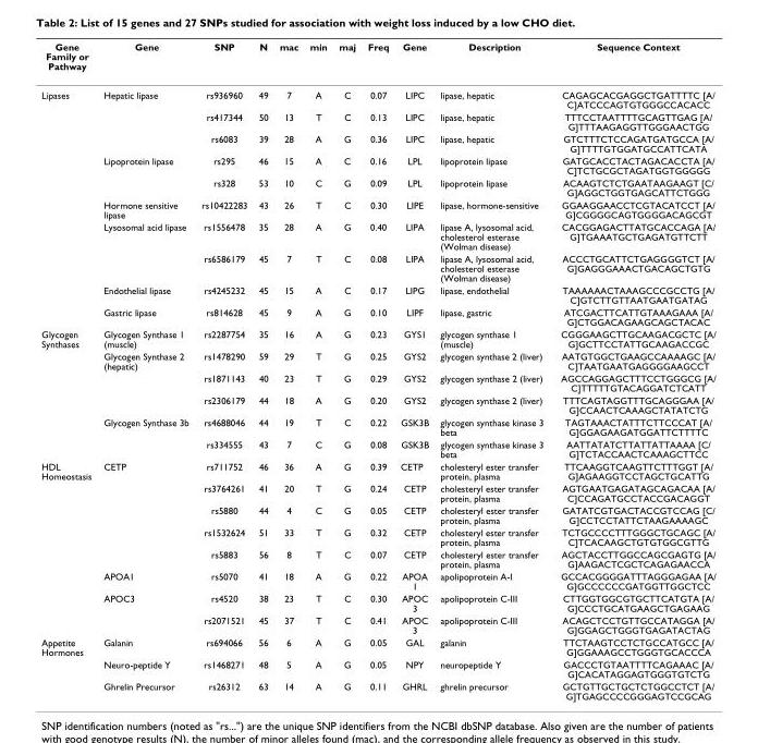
<table><thead><tr><td>Gene Family or Pathway</td><td>Gene</td><td>SNP</td><td>N</td><td>mac</td><td>min</td><td>maj</td><td>Freq</td><td>Gene</td><td>Description</td><td>Sequence Context</td></tr></thead><tbody><tr><td rowspan="10">Lipases</td><td>Hepatic lipase</td><td>rs936960</td><td>49</td><td>7</td><td>A</td><td>C</td><td>0.07</td><td>LIPC</td><td>lipase, hepatic</td><td>CAGAGCACGAGGCTGATTTTC [A/ C]ATCCCAGTGTGGGCCACACC</td></tr><tr><td></td><td>rs417344</td><td>50</td><td>13</td><td>T</td><td>C</td><td>0.13</td><td>LIPC</td><td>lipase, hepatic</td><td>TTTCCTAATTTTGCAGTTGAG [A/ G]TTTAAGAGGTTGGGAACTGG</td></tr><tr><td></td><td>rs6083</td><td>39</td><td>28</td><td>A</td><td>G</td><td>0.36</td><td>LIPC</td><td>lipase, hepatic</td><td>GTCTTTCTCCAGATGATGCCA [A/ G]TTTTGTGGATGCCATTCATA</td></tr><tr><td>Lipoprotein lipase</td><td>rs295</td><td>46</td><td>15</td><td>A</td><td>C</td><td>0.16</td><td>LPL</td><td>lipoprotein lipase</td><td>GATGCACCTACTAGACACCTA [A/ C]TCTGCGCTAGATGGTGGGGG</td></tr><tr><td></td><td>rs328</td><td>53</td><td>10</td><td>C</td><td>G</td><td>0.09</td><td>LPL</td><td>lipoprotein lipase</td><td>ACAAGTCTCTGAATAAGAAGT [C/ G]AGGCTGGTGAGCATTCTGGG</td></tr><tr><td>Hormone sensitive lipase</td><td>rs10422283</td><td>43</td><td>26</td><td>T</td><td>C</td><td>0.30</td><td>LIPE</td><td>lipase, hormone-sensitive</td><td>GGAAGGAACCTCGTACATCCT [A/ G]CGGGGCAGTGGGGACAGCGT</td></tr><tr><td>Lysosomal acid lipase</td><td>rs1556478</td><td>35</td><td>28</td><td>A</td><td>G</td><td>0.40</td><td>LIPA</td><td>lipase A, lysosomal acid, cholesterol esterase (Wolman disease)</td><td>CACGGAGACTTATGCACCAGA [A/ G]TGAAATGCTGAGATGTTCTT</td></tr><tr><td></td><td>rs6586179</td><td>45</td><td>7</td><td>T</td><td>C</td><td>0.08</td><td>LIPA</td><td>lipase A, lysosomal acid, cholesterol esterase (Wolman disease)</td><td>ACCCTGCATTCTGAGGGGTCT [A/ G]GAGGGAAACTGACAGCTGTG</td></tr><tr><td>Endothelial lipase</td><td>rs4245232</td><td>45</td><td>15</td><td>A</td><td>C</td><td>0.17</td><td>LIPG</td><td>lipase, endothelial</td><td>TAAAAAACTAAAGCCCGCCTG [A/ C]GTCTTGTTAATGAATGATAG</td></tr><tr><td>Gastric lipase</td><td>rs814628</td><td>45</td><td>9</td><td>A</td><td>G</td><td>0.10</td><td>LIPF</td><td>lipase, gastric</td><td>ATCGACTTCATTGTAAAGAAA [A/ G]CTGGACAGAAGCAGCTACAC</td></tr><tr><td rowspan="6">Glycogen Synthases</td><td>Glycogen Synthase 1 (muscle)</td><td>rs2287754</td><td>35</td><td>16</td><td>A</td><td>G</td><td>0.23</td><td>GYS1</td><td>glycogen synthase 1 (muscle)</td><td>CGGGAAGCTTGCAAGACGCTC [A/ G]GCTTCCTATTGCAAGACCGC</td></tr><tr><td>Glycogen Synthase 2 (hepatic)</td><td>rs1478290</td><td>59</td><td>29</td><td>T</td><td>G</td><td>0.25</td><td>GYS2</td><td>glycogen synthase 2 (liver)</td><td>AATGTGGCTGAAGCCAAAAGC [A/ C]TAATGAATGAGGGGAAGCCT</td></tr><tr><td></td><td>rs1871143</td><td>40</td><td>23</td><td>T</td><td>G</td><td>0.29</td><td>GYS2</td><td>glycogen synthase 2 (liver)</td><td>AGCCAGGAGCTTTCCTGGGCG [A/ C]TTTTTGTACAGGATCTCATT</td></tr><tr><td></td><td>rs2306179</td><td>44</td><td>18</td><td>A</td><td>G</td><td>0.20</td><td>GYS2</td><td>glycogen synthase 2 (liver)</td><td>TTTCAGTAGGTTTGCAGGGAA [A/ G]CCAACTCAAAGCTATATCTG</td></tr><tr><td>Glycogen Synthase 3b</td><td>rs4688046</td><td>44</td><td>19</td><td>T</td><td>C</td><td>0.22</td><td>GSK3B</td><td>glycogen synthase kinase 3 beta</td><td>TAGTAAACTATTTCTTCCCAT [A/ G]GGAGAAGATGGATTCTTTTC</td></tr><tr><td></td><td>rs334555</td><td>43</td><td>7</td><td>C</td><td>G</td><td>0.08</td><td>GSK3B</td><td>glycogen synthase kinase 3 beta</td><td>AATTATATCTTATTATTAAAA [C/ G]TCTACCAACTCAAAGCTTCC</td></tr><tr><td rowspan="8">HDL Homeostasis</td><td>CETP</td><td>rs711752</td><td>46</td><td>36</td><td>A</td><td>G</td><td>0.39</td><td>CETP</td><td>cholesteryl ester transfer protein, plasma</td><td>TTCAAGGTCAAGTTCTTTGGT [A/ G]AGAAGGTCCTAGCTGCATTG</td></tr><tr><td></td><td>rs3764261</td><td>41</td><td>20</td><td>T</td><td>G</td><td>0.24</td><td>CETP</td><td>cholesteryl ester transfer protein, plasma</td><td>AGTGAATGAGATAGCAGACAA [A/ C]CCAGATGCCTACCGACAGGT</td></tr><tr><td></td><td>rs5880</td><td>44</td><td>4</td><td>C</td><td>G</td><td>0.05</td><td>CETP</td><td>cholesteryl ester transfer protein, plasma</td><td>GATATCGTGACTACCGTCCAG [C/ G]CCTCCTATTCTAAGAAAAGC</td></tr><tr><td></td><td>rs1532624</td><td>51</td><td>33</td><td>T</td><td>G</td><td>0.32</td><td>CETP</td><td>cholesteryl ester transfer protein, plasma</td><td>TCTGCCCCTTTGGGCTGCAGC [A/ C]TCACAAGCTGTGTGGCGTTG</td></tr><tr><td></td><td>rs5883</td><td>56</td><td>8</td><td>T</td><td>C</td><td>0.07</td><td>CETP</td><td>cholesteryl ester transfer protein, plasma</td><td>AGCTACCTTGGCCAGCGAGTG [A/ G]AAGACTCGCTCAGAGAACCA</td></tr><tr><td>APOA1</td><td>rs5070</td><td>41</td><td>18</td><td>A</td><td>G</td><td>0.22</td><td>APOA 1</td><td>apolipoprotein A-I</td><td>GCCACGGGGATTTAGGGAGAA [A/ G]GCCCCCCGATGGTTGGCTCC</td></tr><tr><td>APOC3</td><td>rs4520</td><td>38</td><td>23</td><td>T</td><td>C</td><td>0.30</td><td>APOC 3</td><td>apolipoprotein C-III</td><td>CTTGGTGGCGTGCTTCATGTA [A/ G]CCCTGCATGAAGCTGAGAAG</td></tr><tr><td></td><td>rs2071521</td><td>45</td><td>37</td><td>T</td><td>C</td><td>0.41</td><td>APOC 3</td><td>apolipoprotein C-III</td><td>ACAGCTCCTGTTGCCATAGGA [A/ G]GGAGCTGGGTGAGATACTAG</td></tr><tr><td rowspan="3">Appetite Hormones</td><td>Galanin</td><td>rs694066</td><td>56</td><td>6</td><td>A</td><td>G</td><td>0.05</td><td>GAL</td><td>galanin</td><td>TTCTAAGTCCTCTGCCATGCC [A/ G]GGAAAGCCTGGGTGCACCCA</td></tr><tr><td>Neuro-peptide Y</td><td>rs1468271</td><td>48</td><td>5</td><td>A</td><td>G</td><td>0.05</td><td>NPY</td><td>neuropeptide Y</td><td>GACCCTGTAATTTTCAGAAAC [A/ G]CACATAGGAGTGGGTGTCTG</td></tr><tr><td>Ghrelin Precursor</td><td>rs26312</td><td>63</td><td>14</td><td>A</td><td>G</td><td>0.11</td><td>GHRL</td><td>ghrelin precursor</td><td>GCTGTTGCTGCTCTGGCCTCT [A/ G]TGAGCCCCGGGAGTCCGCAG</td></tr></tbody></table>